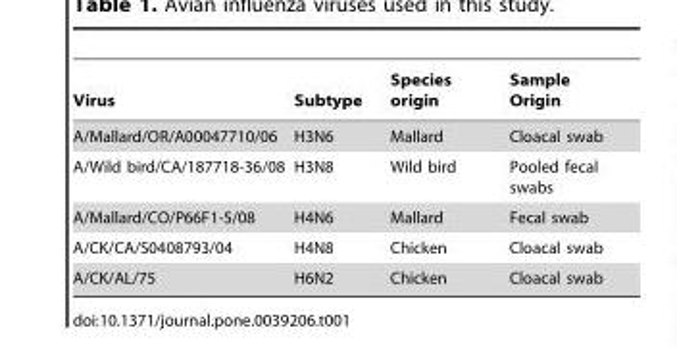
<table><thead><tr><td>Virus</td><td>Subtype</td><td>Species origin</td><td>Sample Origin</td></tr></thead><tbody><tr><td>A/Mallard/OR/A00047710/06</td><td>H3N6</td><td>Mallard</td><td>Cloacal swab</td></tr><tr><td>A/Wild bird/CA/187718-36/08</td><td>H3N8</td><td>Wild bird</td><td>Pooled fecal swabs</td></tr><tr><td>A/Mallard/CO/P66F1-5/08</td><td>H4N6</td><td>Mallard</td><td>Fecal swab</td></tr><tr><td>A/CK/CA/S0408793/04</td><td>H4N8</td><td>Chicken</td><td>Cloacal swab</td></tr><tr><td>A/CK/AL/75</td><td>H6N2</td><td>Chicken</td><td>Cloacal swab</td></tr></tbody></table>